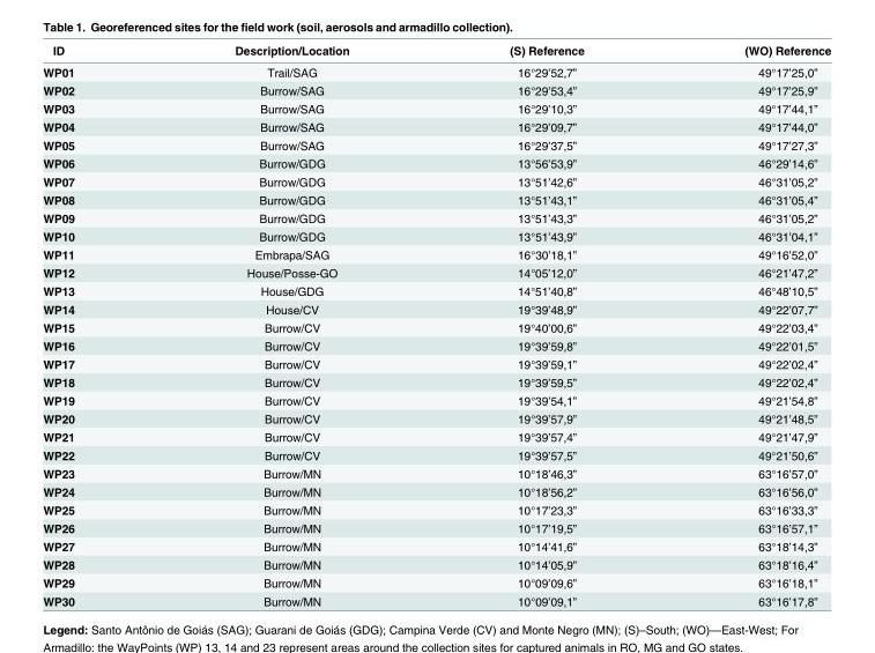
<table><thead><tr><td>ID</td><td>Description/Location</td><td>(S) Reference</td><td>(WO) Reference</td></tr></thead><tbody><tr><td>WP01</td><td>Trail/SAG</td><td>16°29’52,7”</td><td>49°17’25,0”</td></tr><tr><td>WP02</td><td>Burrow/SAG</td><td>16°29’53,4”</td><td>49°17’25,9”</td></tr><tr><td>WP03</td><td>Burrow/SAG</td><td>16°29’10,3”</td><td>49°17’44,1”</td></tr><tr><td>WP04</td><td>Burrow/SAG</td><td>16°29’09,7”</td><td>49°17’44,0”</td></tr><tr><td>WP05</td><td>Burrow/SAG</td><td>16°29’37,5”</td><td>49°17’27,3”</td></tr><tr><td>WP06</td><td>Burrow/GDG</td><td>13°56’53,9”</td><td>46°29’14,6”</td></tr><tr><td>WP07</td><td>Burrow/GDG</td><td>13°51’42,6”</td><td>46°31’05,2”</td></tr><tr><td>WP08</td><td>Burrow/GDG</td><td>13°51’43,1”</td><td>46°31’05,4”</td></tr><tr><td>WP09</td><td>Burrow/GDG</td><td>13°51’43,3”</td><td>46°31’05,2”</td></tr><tr><td>WP10</td><td>Burrow/GDG</td><td>13°51’43,9”</td><td>46°31’04,1”</td></tr><tr><td>WP11</td><td>Embrapa/SAG</td><td>16°30’18,1”</td><td>49°16’52,0”</td></tr><tr><td>WP12</td><td>House/Posse-GO</td><td>14°05’12,0”</td><td>46°21’47,2”</td></tr><tr><td>WP13</td><td>House/GDG</td><td>14°51’40,8”</td><td>46°48’10,5”</td></tr><tr><td>WP14</td><td>House/CV</td><td>19°39’48,9”</td><td>49°22’07,7”</td></tr><tr><td>WP15</td><td>Burrow/CV</td><td>19°40’00,6”</td><td>49°22’03,4”</td></tr><tr><td>WP16</td><td>Burrow/CV</td><td>19°39’59,8”</td><td>49°22’01,5”</td></tr><tr><td>WP17</td><td>Burrow/CV</td><td>19°39’59,1”</td><td>49°22’02,4”</td></tr><tr><td>WP18</td><td>Burrow/CV</td><td>19°39’59,5”</td><td>49°22’02,4”</td></tr><tr><td>WP19</td><td>Burrow/CV</td><td>19°39’54,1”</td><td>49°21’54,8”</td></tr><tr><td>WP20</td><td>Burrow/CV</td><td>19°39’57,9”</td><td>49°21’48,5”</td></tr><tr><td>WP21</td><td>Burrow/CV</td><td>19°39’57,4”</td><td>49°21’47,9”</td></tr><tr><td>WP22</td><td>Burrow/CV</td><td>19°39’57,5”</td><td>49°21’50,6”</td></tr><tr><td>WP23</td><td>Burrow/MN</td><td>10°18’46,3”</td><td>63°16’57,0”</td></tr><tr><td>WP24</td><td>Burrow/MN</td><td>10°18’56,2”</td><td>63°16’56,0”</td></tr><tr><td>WP25</td><td>Burrow/MN</td><td>10°17’23,3”</td><td>63°16’33,3”</td></tr><tr><td>WP26</td><td>Burrow/MN</td><td>10°17’19,5”</td><td>63°16’57,1”</td></tr><tr><td>WP27</td><td>Burrow/MN</td><td>10°14’41,6”</td><td>63°18’14,3”</td></tr><tr><td>WP28</td><td>Burrow/MN</td><td>10°14’05,9”</td><td>63°18’16,4”</td></tr><tr><td>WP29</td><td>Burrow/MN</td><td>10°09’09,6”</td><td>63°16’18,1”</td></tr><tr><td>WP30</td><td>Burrow/MN</td><td>10°09’09,1”</td><td>63°16’17,8”</td></tr></tbody></table>